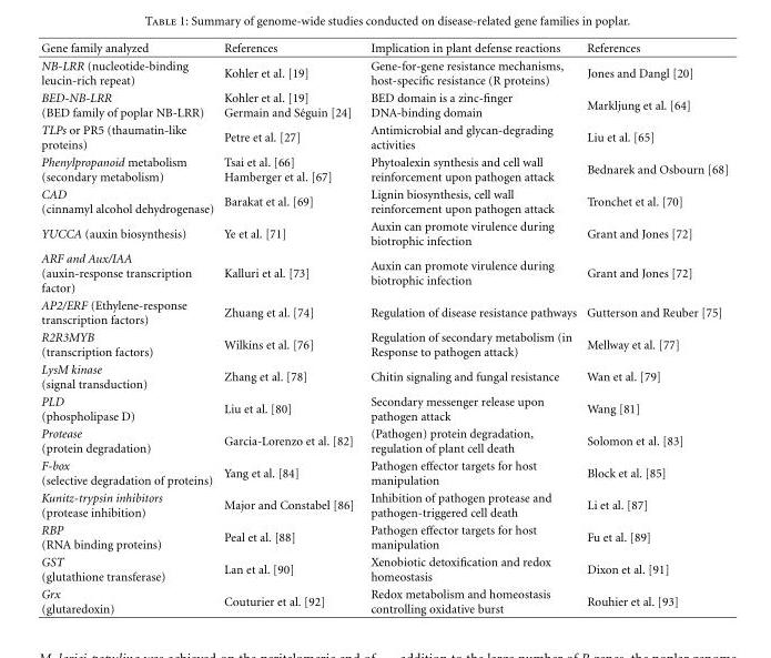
<table><thead><tr><td>Gene family analyzed</td><td>References</td><td>Implication in plant defense reactions</td><td>References</td></tr></thead><tbody><tr><td>NB-LRR (nucleotide-binding leucin-rich repeat)</td><td>Kohler et al. [19]</td><td>Gene-for-gene resistance mechanisms, host-specific resistance (R proteins)</td><td>Jones and Dangl [20]</td></tr><tr><td>BED-NB-LRR (BED family of poplar NB-LRR)</td><td>Kohler et al. [19] Germain and S´eguin [24]</td><td>BED domain is a zinc-finger DNA-binding domain</td><td>Markljung et al. [64]</td></tr><tr><td>TLPs or PR5 (thaumatin-like proteins)</td><td>Petre et al. [27]</td><td>Antimicrobial and glycan-degrading activities</td><td>Liu et al. [65]</td></tr><tr><td>Phenylpropanoid metabolism (secondary metabolism)</td><td>Tsai et al. [66] Hamberger et al. [67]</td><td>Phytoalexin synthesis and cell wall reinforcement upon pathogen attack</td><td>Bednarek and Osbourn [68]</td></tr><tr><td>CAD (cinnamyl alcohol dehydrogenase)</td><td>Barakat et al. [69]</td><td>Lignin biosynthesis, cell wall reinforcement upon pathogen attack</td><td>Tronchet et al. [70]</td></tr><tr><td>YUCCA (auxin biosynthesis)</td><td>Ye et al. [71]</td><td>Auxin can promote virulence during biotrophic infection</td><td>Grant and Jones [72]</td></tr><tr><td>ARF and Aux/IAA (auxin-response transcription factor)</td><td>Kalluri et al. [73]</td><td>Auxin can promote virulence during biotrophic infection</td><td>Grant and Jones [72]</td></tr><tr><td>AP2/ERF (Ethylene-response transcription factors)</td><td>Zhuang et al. [74]</td><td>Regulation of disease resistance pathways</td><td>Gutterson and Reuber [75]</td></tr><tr><td>R2R3MYB (transcription factors)</td><td>Wilkins et al. [76]</td><td>Regulation of secondary metabolism (in Response to pathogen attack)</td><td>Mellway et al. [77]</td></tr><tr><td>LysM kinase (signal transduction)</td><td>Zhang et al. [78]</td><td>Chitin signaling and fungal resistance</td><td>Wan et al. [79]</td></tr><tr><td>PLD (phospholipase D)</td><td>Liu et al. [80]</td><td>Secondary messenger release upon pathogen attack</td><td>Wang [81]</td></tr><tr><td>Protease (protein degradation)</td><td>Garcia-Lorenzo et al. [82]</td><td>(Pathogen) protein degradation, regulation of plant cell death</td><td>Solomon et al. [83]</td></tr><tr><td>F-box (selective degradation of proteins)</td><td>Yang et al. [84]</td><td>Pathogen effector targets for host manipulation</td><td>Block et al. [85]</td></tr><tr><td>Kunitz-trypsin inhibitors (protease inhibition)</td><td>Major and Constabel [86]</td><td>Inhibition of pathogen protease and pathogen-triggered cell death</td><td>Li et al. [87]</td></tr><tr><td>RBP (RNA binding proteins)</td><td>Peal et al. [88]</td><td>Pathogen effector targets for host manipulation</td><td>Fu et al. [89]</td></tr><tr><td>GST (glutathione transferase)</td><td>Lan et al. [90]</td><td>Xenobiotic detoxification and redox homeostasis</td><td>Dixon et al. [91]</td></tr><tr><td>Grx (glutaredoxin)</td><td>Couturier et al. [92]</td><td>Redox metabolism and homeostasis controlling oxidative burst</td><td>Rouhier et al. [93]</td></tr></tbody></table>